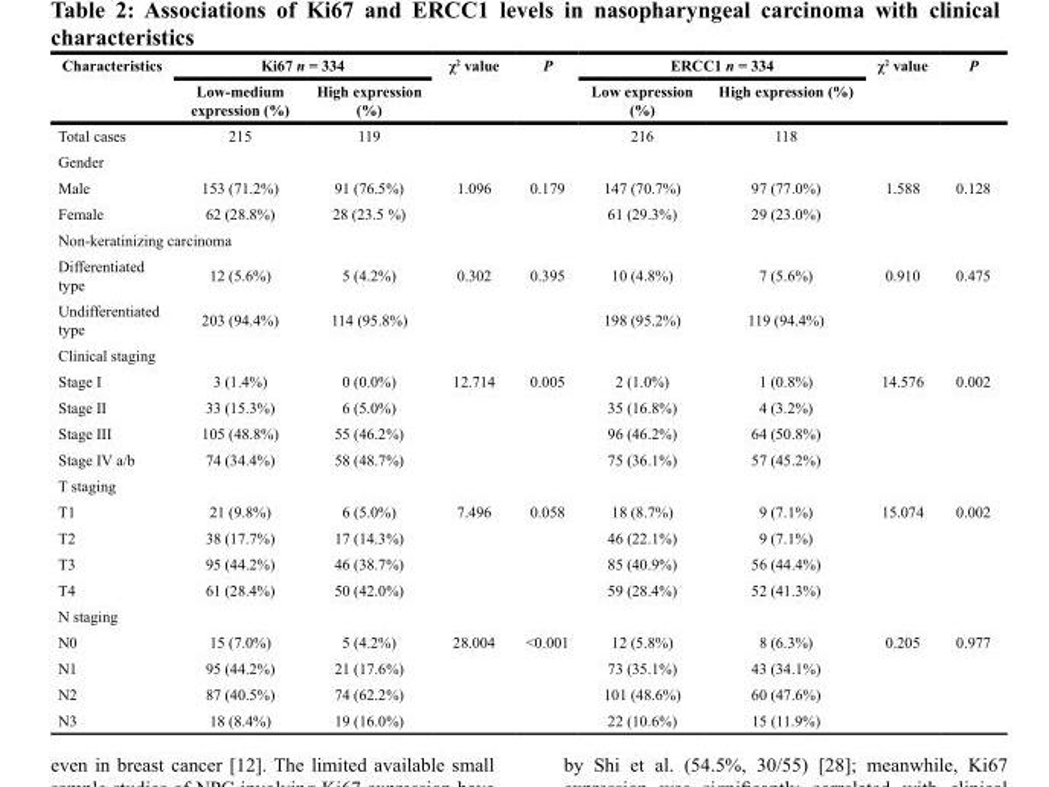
<table><thead><tr><td rowspan="2">Characteristics</td><td colspan="2">Ki67 n = 334</td><td rowspan="2">χ<sup>2</sup> value</td><td rowspan="2">P</td><td colspan="2">ERCC1 n = 334</td><td rowspan="2">χ<sup>2</sup> value</td><td rowspan="2">P</td></tr><tr><td>Low-medium expression (%)</td><td>High expression (%)</td><td>Low expression (%)</td><td>High expression (%)</td></tr></thead><tbody><tr><td>Total cases</td><td>215</td><td>119</td><td></td><td></td><td>216</td><td>118</td><td></td><td></td></tr><tr><td colspan="9">Gender</td></tr><tr><td>Male</td><td>153 (71.2%)</td><td>91 (76.5%)</td><td>1.096</td><td>0.179</td><td>147 (70.7%)</td><td>97 (77.0%)</td><td>1.588</td><td>0.128</td></tr><tr><td>Female</td><td>62 (28.8%)</td><td>28 (23.5 %)</td><td></td><td></td><td>61 (29.3%)</td><td>29 (23.0%)</td><td></td><td></td></tr><tr><td colspan="9">Non-keratinizing carcinoma</td></tr><tr><td>Differentiated type</td><td>12 (5.6%)</td><td>5 (4.2%)</td><td>0.302</td><td>0.395</td><td>10 (4.8%)</td><td>7 (5.6%)</td><td>0.910</td><td>0.475</td></tr><tr><td>Undifferentiated type</td><td>203 (94.4%)</td><td>114 (95.8%)</td><td></td><td></td><td>198 (95.2%)</td><td>119 (94.4%)</td><td></td><td></td></tr><tr><td colspan="9">Clinical staging</td></tr><tr><td>Stage I</td><td>3 (1.4%)</td><td>0 (0.0%)</td><td>12.714</td><td>0.005</td><td>2 (1.0%)</td><td>1 (0.8%)</td><td>14.576</td><td>0.002</td></tr><tr><td>Stage II</td><td>33 (15.3%)</td><td>6 (5.0%)</td><td></td><td></td><td>35 (16.8%)</td><td>4 (3.2%)</td><td></td><td></td></tr><tr><td>Stage III</td><td>105 (48.8%)</td><td>55 (46.2%)</td><td></td><td></td><td>96 (46.2%)</td><td>64 (50.8%)</td><td></td><td></td></tr><tr><td>Stage IV a/b</td><td>74 (34.4%)</td><td>58 (48.7%)</td><td></td><td></td><td>75 (36.1%)</td><td>57 (45.2%)</td><td></td><td></td></tr><tr><td colspan="9">T staging</td></tr><tr><td>T1</td><td>21 (9.8%)</td><td>6 (5.0%)</td><td>7.496</td><td>0.058</td><td>18 (8.7%)</td><td>9 (7.1%)</td><td>15.074</td><td>0.002</td></tr><tr><td>T2</td><td>38 (17.7%)</td><td>17 (14.3%)</td><td></td><td></td><td>46 (22.1%)</td><td>9 (7.1%)</td><td></td><td></td></tr><tr><td>T3</td><td>95 (44.2%)</td><td>46 (38.7%)</td><td></td><td></td><td>85 (40.9%)</td><td>56 (44.4%)</td><td></td><td></td></tr><tr><td>T4</td><td>61 (28.4%)</td><td>50 (42.0%)</td><td></td><td></td><td>59 (28.4%)</td><td>52 (41.3%)</td><td></td><td></td></tr><tr><td colspan="9">N staging</td></tr><tr><td>N0</td><td>15 (7.0%)</td><td>5 (4.2%)</td><td>28.004</td><td>&lt;0.001</td><td>12 (5.8%)</td><td>8 (6.3%)</td><td>0.205</td><td>0.977</td></tr><tr><td>N1</td><td>95 (44.2%)</td><td>21 (17.6%)</td><td></td><td></td><td>73 (35.1%)</td><td>43 (34.1%)</td><td></td><td></td></tr><tr><td>N2</td><td>87 (40.5%)</td><td>74 (62.2%)</td><td></td><td></td><td>101 (48.6%)</td><td>60 (47.6%)</td><td></td><td></td></tr><tr><td>N3</td><td>18 (8.4%)</td><td>19 (16.0%)</td><td></td><td></td><td>22 (10.6%)</td><td>15 (11.9%)</td><td></td><td></td></tr></tbody></table>